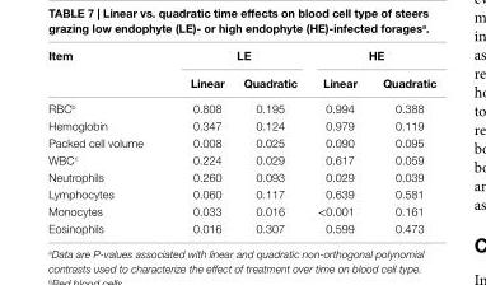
<table><thead><tr><td rowspan="2">item</td><td colspan="2">le</td><td colspan="2">he</td></tr><tr><td>linear</td><td>Quadratic</td><td>linear</td><td>Quadratic</td></tr></thead><tbody><tr><td>RBC<sup>b</sup></td><td>0.808</td><td>0.195</td><td>0.994</td><td>0.388</td></tr><tr><td>Hemoglobin</td><td>0.347</td><td>0.124</td><td>0.979</td><td>0.119</td></tr><tr><td>Packed cell volume</td><td>0.008</td><td>0.025</td><td>0.090</td><td>0.095</td></tr><tr><td>WBC<sup>c</sup></td><td>0.224</td><td>0.029</td><td>0.617</td><td>0.059</td></tr><tr><td>Neutrophils</td><td>0.260</td><td>0.093</td><td>0.029</td><td>0.039</td></tr><tr><td>Lymphocytes</td><td>0.060</td><td>0.117</td><td>0.639</td><td>0.581</td></tr><tr><td>Monocytes</td><td>0.033</td><td>0.016</td><td>&lt;0.001</td><td>0.161</td></tr><tr><td>Eosinophils</td><td>0.016</td><td>0.307</td><td>0.599</td><td>0.473</td></tr></tbody></table>